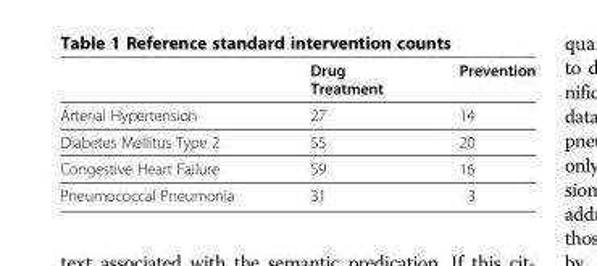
<table><thead><tr><td></td><td>Drug Treatment</td><td>Prevention</td></tr></thead><tbody><tr><td>Arterial Hypertension</td><td>27</td><td>14</td></tr><tr><td>Diabetes Mellitus Type 2</td><td>55</td><td>20</td></tr><tr><td>Congestive Heart Failure</td><td>59</td><td>16</td></tr><tr><td>Pneumococcal Pneumonia</td><td>31</td><td>3</td></tr></tbody></table>